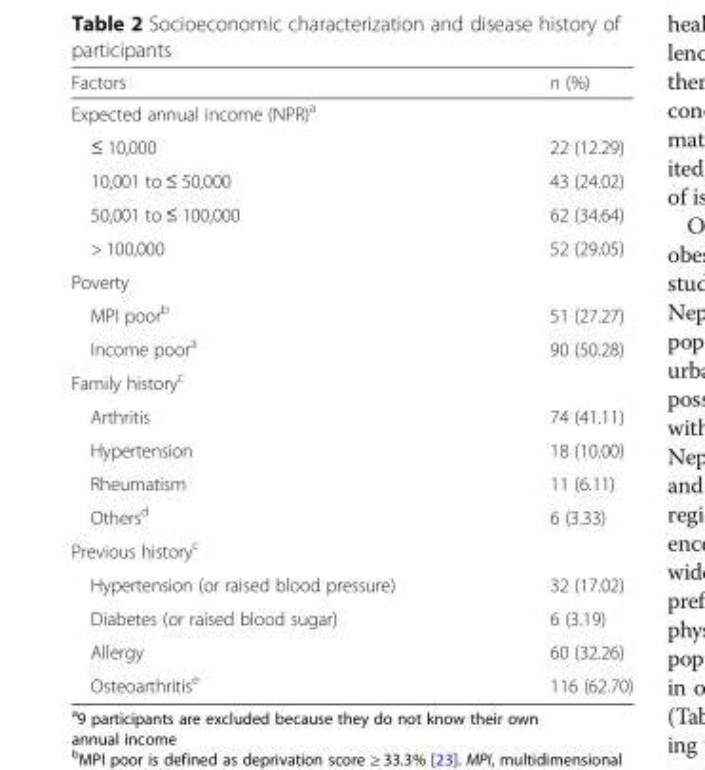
<table><thead><tr><td>Factors</td><td>n (%)</td></tr></thead><tbody><tr><td colspan="2">Expected annual income (NPR)<sup>a</sup></td></tr><tr><td>≤ 10,000</td><td>22 (12.29)</td></tr><tr><td>10,001 to ≤ 50,000</td><td>43 (24.02)</td></tr><tr><td>50,001 to ≤ 100,000</td><td>62 (34.64)</td></tr><tr><td>&gt; 100,000</td><td>52 (29.05)</td></tr><tr><td colspan="2">Poverty</td></tr><tr><td>MPI poor<sup>b</sup></td><td>51 (27.27)</td></tr><tr><td>Income poor<sup>a</sup></td><td>90 (50.28)</td></tr><tr><td colspan="2">Family history<sup>c</sup></td></tr><tr><td>Arthritis</td><td>74 (41.11)</td></tr><tr><td>Hypertension</td><td>18 (10.00)</td></tr><tr><td>Rheumatism</td><td>11 (6.11)</td></tr><tr><td>Others<sup>d</sup></td><td>6 (3.33)</td></tr><tr><td colspan="2">Previous history<sup>c</sup></td></tr><tr><td>Hypertension (or raised blood pressure)</td><td>32 (17.02)</td></tr><tr><td>Diabetes (or raised blood sugar)</td><td>6 (3.19)</td></tr><tr><td>Allergy</td><td>60 (32.26)</td></tr><tr><td>Osteoarthritis<sup>e</sup></td><td>116 (62.70)</td></tr></tbody></table>